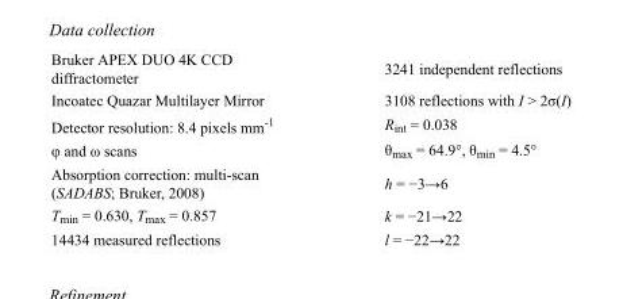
<table><tbody><tr><td>Bruker APEX DUO 4K CCD diffractometer</td><td>3241 independent reflections</td></tr><tr><td>Incoatec Quazar Multilayer Mirror</td><td>3108 reflections with I &gt; 2σ(I)</td></tr><tr><td>Detector resolution: 8.4 pixels mm<sup>-1</sup></td><td>R<sub>int</sub> = 0.038</td></tr><tr><td>φ and ω scans</td><td>θ<sub>max</sub> = 64.9°, θ<sub>min</sub> = 4.5°</td></tr><tr><td>Absorption correction: multi-scan (SADABS; Bruker, 2008)</td><td>h = −3→6</td></tr><tr><td>T<sub>min</sub> = 0.630, T<sub>max</sub> = 0.857</td><td>k = −21→22</td></tr><tr><td>14434 measured reflections</td><td>l = −22→22</td></tr></tbody></table>